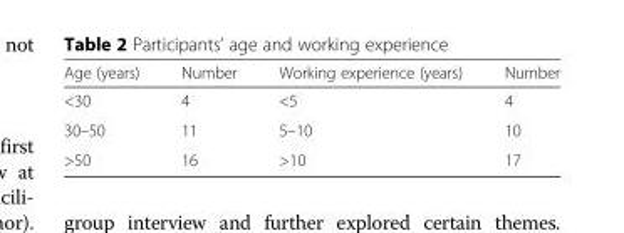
<table><thead><tr><td>Age (years)</td><td>Number</td><td>Working experience (years)</td><td>Number</td></tr></thead><tbody><tr><td>&lt;30</td><td>4</td><td>&lt;5</td><td>4</td></tr><tr><td>30–50</td><td>11</td><td>5–10</td><td>10</td></tr><tr><td>&gt;50</td><td>16</td><td>&gt;10</td><td>17</td></tr></tbody></table>